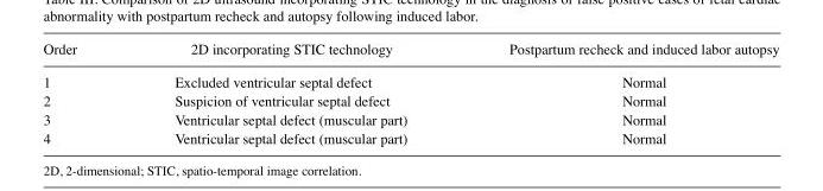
<table><thead><tr><td>Order</td><td>2D incorporating STIC technology</td><td>Postpartum recheck and induced labor autopsy</td></tr></thead><tbody><tr><td>1</td><td>Excluded ventricular septal defect</td><td>Normal</td></tr><tr><td>2</td><td>Suspicion of ventricular septal defect</td><td>Normal</td></tr><tr><td>3</td><td>Ventricular septal defect (muscular part)</td><td>Normal</td></tr><tr><td>4</td><td>Ventricular septal defect (muscular part)</td><td>Normal</td></tr></tbody></table>